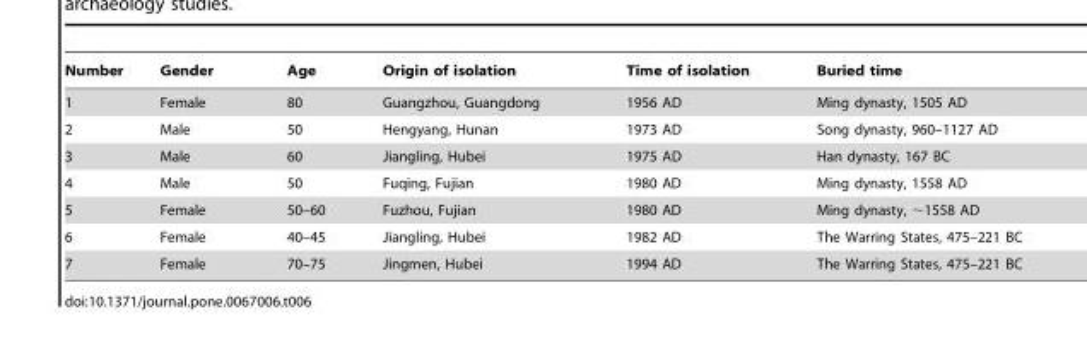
<table><thead><tr><td>Number</td><td>Gender</td><td>Age</td><td>Origin of isolation</td><td>Time of isolation</td><td>Buried time</td></tr></thead><tbody><tr><td>1</td><td>Female</td><td>80</td><td>Guangzhou, Guangdong</td><td>1956 AD</td><td>Ming dynasty, 1505 AD</td></tr><tr><td>2</td><td>Male</td><td>50</td><td>Hengyang, Hunan</td><td>1973 AD</td><td>Song dynasty, 960–1127 AD</td></tr><tr><td>3</td><td>Male</td><td>60</td><td>Jiangling, Hubei</td><td>1975 AD</td><td>Han dynasty, 167 BC</td></tr><tr><td>4</td><td>Male</td><td>50</td><td>Fuqing, Fujian</td><td>1980 AD</td><td>Ming dynasty, 1558 AD</td></tr><tr><td>5</td><td>Female</td><td>50–60</td><td>Fuzhou, Fujian</td><td>1980 AD</td><td>Ming dynasty, ∼1558 AD</td></tr><tr><td>6</td><td>Female</td><td>40–45</td><td>Jiangling, Hubei</td><td>1982 AD</td><td>The Warring States, 475–221 BC</td></tr><tr><td>7</td><td>Female</td><td>70–75</td><td>Jingmen, Hubei</td><td>1994 AD</td><td>The Warring States, 475–221 BC</td></tr></tbody></table>